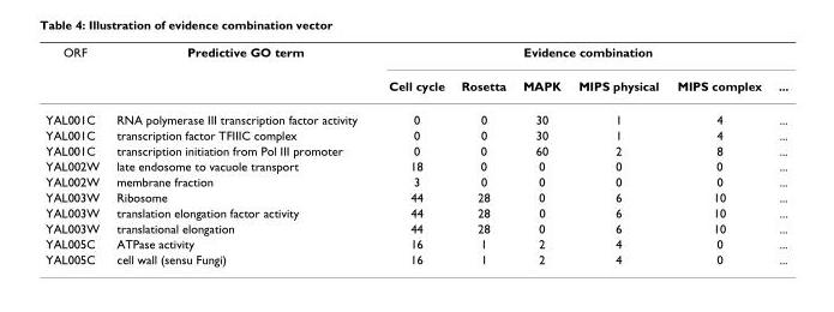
<table><thead><tr><td rowspan="2">ORF</td><td rowspan="2">Predictive GO term</td><td colspan="6">Evidence combination</td></tr><tr><td>Cell cycle</td><td>Rosetta</td><td>MAPK</td><td>MIPS physical</td><td>MIPS complex</td><td>...</td></tr></thead><tbody><tr><td>YAL001C</td><td>RNA polymerase III transcription factor activity</td><td>0</td><td>0</td><td>30</td><td>1</td><td>4</td><td>...</td></tr><tr><td>YAL001C</td><td>transcription factor TFIIIC complex</td><td>0</td><td>0</td><td>30</td><td>1</td><td>4</td><td>...</td></tr><tr><td>YAL001C</td><td>transcription initiation from Pol III promoter</td><td>0</td><td>0</td><td>60</td><td>2</td><td>8</td><td>...</td></tr><tr><td>YAL002W</td><td>late endosome to vacuole transport</td><td>18</td><td>0</td><td>0</td><td>0</td><td>0</td><td>...</td></tr><tr><td>YAL002W</td><td>membrane fraction</td><td>3</td><td>0</td><td>0</td><td>0</td><td>0</td><td>...</td></tr><tr><td>YAL003W</td><td>Ribosome</td><td>44</td><td>28</td><td>0</td><td>6</td><td>10</td><td>...</td></tr><tr><td>YAL003W</td><td>translation elongation factor activity</td><td>44</td><td>28</td><td>0</td><td>6</td><td>10</td><td>...</td></tr><tr><td>YAL003W</td><td>translational elongation</td><td>44</td><td>28</td><td>0</td><td>6</td><td>10</td><td>...</td></tr><tr><td>YAL005C</td><td>ATPase activity</td><td>16</td><td>1</td><td>2</td><td>4</td><td>0</td><td>...</td></tr><tr><td>YAL005C</td><td>cell wall (sensu Fungi)</td><td>16</td><td>1</td><td>2</td><td>4</td><td>0</td><td>...</td></tr></tbody></table>